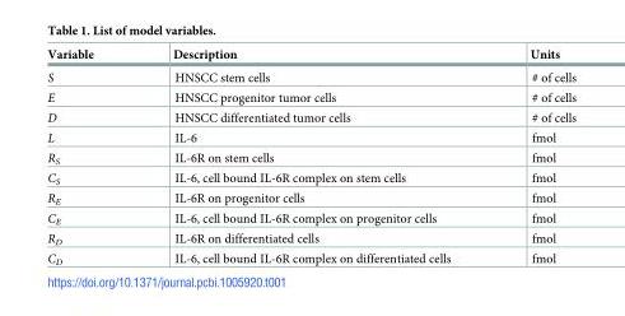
<table><thead><tr><td>Variable</td><td>Description</td><td>Units</td></tr></thead><tbody><tr><td>S</td><td>HNSCC stem cells</td><td># of cells</td></tr><tr><td>E</td><td>HNSCC progenitor tumor cells</td><td># of cells</td></tr><tr><td>D</td><td>HNSCC differentiated tumor cells</td><td># of cells</td></tr><tr><td>L</td><td>IL-6</td><td>fmol</td></tr><tr><td>R<sub>S</sub></td><td>IL-6R on stem cells</td><td>fmol</td></tr><tr><td>C<sub>S</sub></td><td>IL-6, cell bound IL-6R complex on stem cells</td><td>fmol</td></tr><tr><td>R<sub>E</sub></td><td>IL-6R on progenitor cells</td><td>fmol</td></tr><tr><td>C<sub>E</sub></td><td>IL-6, cell bound IL-6R complex on progenitor cells</td><td>fmol</td></tr><tr><td>R<sub>D</sub></td><td>IL-6R on differentiated cells</td><td>fmol</td></tr><tr><td>C<sub>D</sub></td><td>IL-6, cell bound IL-6R complex on differentiated cells</td><td>fmol</td></tr></tbody></table>